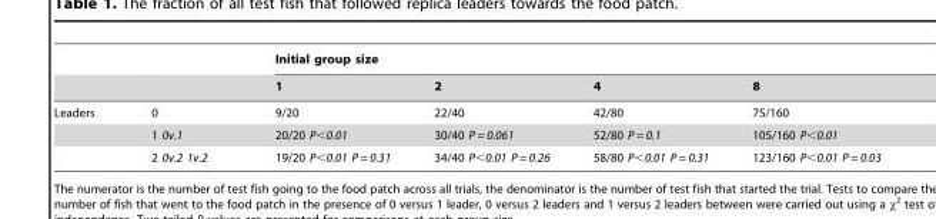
<table><thead><tr><td rowspan="2"></td><td rowspan="2"></td><td colspan="4">Initial group size</td></tr><tr><td>1</td><td>2</td><td>4</td><td>8</td></tr></thead><tbody><tr><td rowspan="3">Leaders</td><td>0</td><td>9/20</td><td>22/40</td><td>42/80</td><td>75/160</td></tr><tr><td>1 0v.1</td><td>20/20 P&lt;0.01</td><td>30/40 P = 0.061</td><td>52/80 P = 0.1</td><td>105/160 P&lt;0.01</td></tr><tr><td>2 0v.2 1v.2</td><td>19/20 P&lt;0.01 P = 0.31</td><td>34/40 P&lt;0.01 P = 0.26</td><td>58/80 P&lt;0.01 P = 0.31</td><td>123/160 P&lt;0.01 P = 0.03</td></tr></tbody></table>